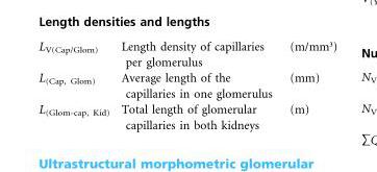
<table><tbody><tr><td>L<sub>V(Cap/Glom)</sub></td><td>Length density of capillaries per glomerulus</td><td>(m/mm³)</td></tr><tr><td>L<sub>(Cap, Glom)</sub></td><td>Average length of the capillaries in one glomerulus</td><td>(mm)</td></tr><tr><td>L<sub>(Glom-cap, Kid)</sub></td><td>Total length of glomerular capillaries in both kidneys</td><td>(m)</td></tr></tbody></table>